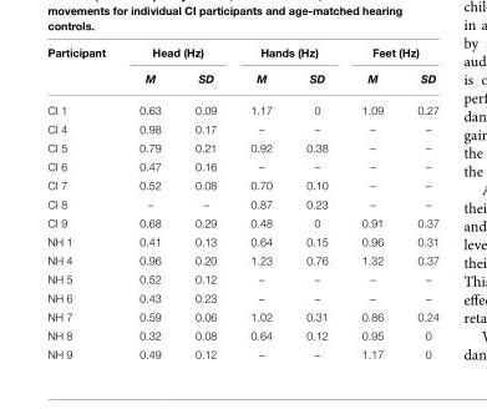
<table><thead><tr><td rowspan="2">Participant</td><td colspan="2">Head (Hz)</td><td colspan="2">Hands (Hz)</td><td colspan="2">Feet (Hz)</td></tr><tr><td>M</td><td>SD</td><td>M</td><td>SD</td><td>M</td><td>SD</td></tr></thead><tbody><tr><td>CI 1</td><td>0.63</td><td>0.09</td><td>1.17</td><td>0</td><td>1.09</td><td>0.27</td></tr><tr><td>CI 4</td><td>0.98</td><td>0.17</td><td>–</td><td>–</td><td>–</td><td>–</td></tr><tr><td>CI 5</td><td>0.79</td><td>0.21</td><td>0.92</td><td>0.38</td><td>–</td><td>–</td></tr><tr><td>CI 6</td><td>0.47</td><td>0.16</td><td>–</td><td>–</td><td>–</td><td>–</td></tr><tr><td>CI 7</td><td>0.52</td><td>0.08</td><td>0.70</td><td>0.10</td><td>–</td><td>–</td></tr><tr><td>CI 8</td><td>–</td><td>–</td><td>0.87</td><td>0.23</td><td>–</td><td>–</td></tr><tr><td>CI 9</td><td>0.68</td><td>0.29</td><td>0.48</td><td>0</td><td>0.91</td><td>0.37</td></tr><tr><td>NH 1</td><td>0.41</td><td>0.13</td><td>0.64</td><td>0.15</td><td>0.96</td><td>0.31</td></tr><tr><td>NH 4</td><td>0.96</td><td>0.20</td><td>1.23</td><td>0.76</td><td>1.32</td><td>0.37</td></tr><tr><td>NH 5</td><td>0.52</td><td>0.12</td><td>–</td><td>–</td><td>–</td><td>–</td></tr><tr><td>NH 6</td><td>0.43</td><td>0.23</td><td>–</td><td>–</td><td>–</td><td>–</td></tr><tr><td>NH 7</td><td>0.59</td><td>0.06</td><td>1.02</td><td>0.31</td><td>0.86</td><td>0.24</td></tr><tr><td>NH 8</td><td>0.32</td><td>0.08</td><td>0.64</td><td>0.12</td><td>0.95</td><td>0</td></tr><tr><td>NH 9</td><td>0.49</td><td>0.12</td><td>–</td><td>–</td><td>1.17</td><td>0</td></tr></tbody></table>